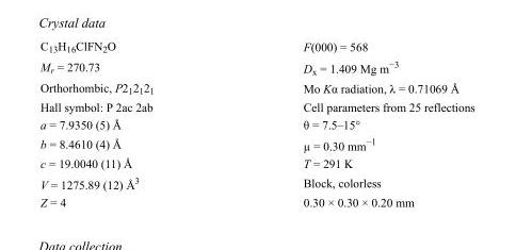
<table><tbody><tr><td>C<sub>13</sub>H<sub>16</sub>ClFN<sub>2</sub>O</td><td>F(000) = 568</td></tr><tr><td>M<sub>r</sub> = 270.73</td><td>D<sub>x</sub> = 1.409 Mg m<sup>−3</sup></td></tr><tr><td>Orthorhombic, P2<sub>1</sub>2<sub>1</sub>2<sub>1</sub></td><td>Mo Kα radiation, λ = 0.71069 Å</td></tr><tr><td>Hall symbol: P 2ac 2ab</td><td>Cell parameters from 25 reflections</td></tr><tr><td>a = 7.9350 (5) Å</td><td>θ = 7.5–15°</td></tr><tr><td>b = 8.4610 (4) Å</td><td>µ = 0.30 mm<sup>−1</sup></td></tr><tr><td>c = 19.0040 (11) Å</td><td>T = 291 K</td></tr><tr><td>V = 1275.89 (12) Å<sup>3</sup></td><td>Block, colorless</td></tr><tr><td>Z = 4</td><td>0.30 × 0.30 × 0.20 mm</td></tr></tbody></table>